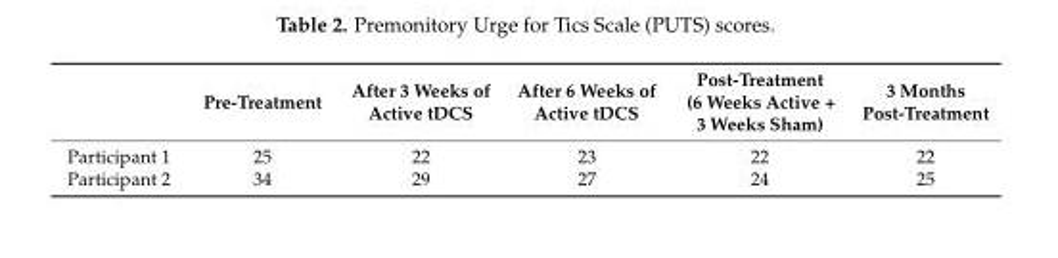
<table><thead><tr><td></td><td>Pre-Treatment</td><td>After 3 Weeks of Active tDCS</td><td>After 6 Weeks of Active tDCS</td><td>Post-Treatment (6 Weeks Active + 3 Weeks Sham)</td><td>3 Months Post-Treatment</td></tr></thead><tbody><tr><td>Participant 1</td><td>25</td><td>22</td><td>23</td><td>22</td><td>22</td></tr><tr><td>Participant 2</td><td>34</td><td>29</td><td>27</td><td>24</td><td>25</td></tr></tbody></table>